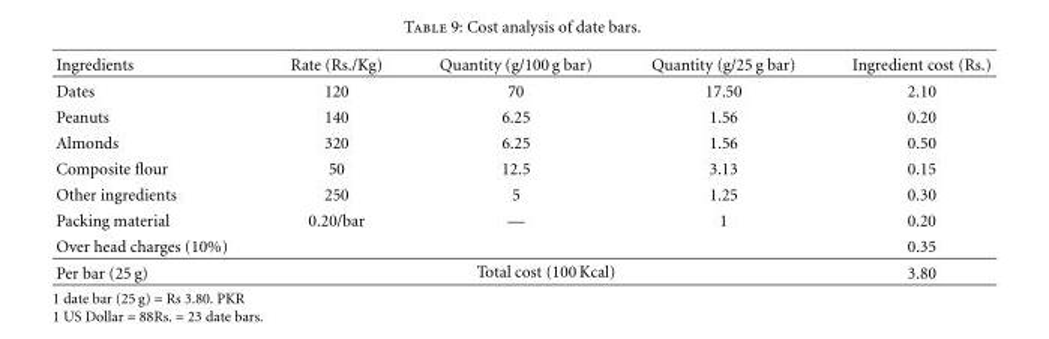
<table><thead><tr><td>Ingredients</td><td>Rate (Rs./Kg)</td><td>Quantity (g/100 g bar)</td><td>Quantity (g/25 g bar)</td><td>Ingredient cost (Rs.)</td></tr></thead><tbody><tr><td>Dates</td><td>120</td><td>70</td><td>17.50</td><td>2.10</td></tr><tr><td>Peanuts</td><td>140</td><td>6.25</td><td>1.56</td><td>0.20</td></tr><tr><td>Almonds</td><td>320</td><td>6.25</td><td>1.56</td><td>0.50</td></tr><tr><td>Composite flour</td><td>50</td><td>12.5</td><td>3.13</td><td>0.15</td></tr><tr><td>Other ingredients</td><td>250</td><td>5</td><td>1.25</td><td>0.30</td></tr><tr><td>Packing material</td><td>0.20/bar</td><td>—</td><td>1</td><td>0.20</td></tr><tr><td>Over head charges (10%)</td><td></td><td></td><td></td><td>0.35</td></tr><tr><td>Per bar (25 g)</td><td colspan="3">Total cost (100 Kcal)</td><td>3.80</td></tr></tbody></table>